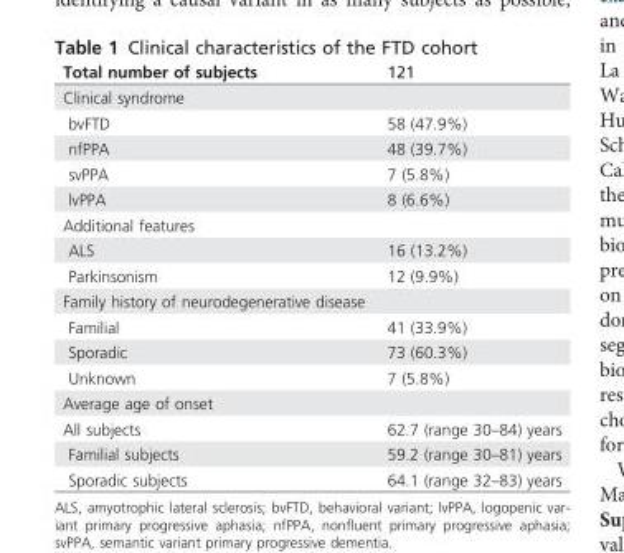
<table><thead><tr><td>Total number of subjects</td><td>121</td></tr></thead><tbody><tr><td colspan="2">Clinical syndrome</td></tr><tr><td>bvFTD</td><td>58 (47.9%)</td></tr><tr><td>nfPPA</td><td>48 (39.7%)</td></tr><tr><td>svPPA</td><td>7 (5.8%)</td></tr><tr><td>lvPPA</td><td>8 (6.6%)</td></tr><tr><td colspan="2">Additional features</td></tr><tr><td>ALS</td><td>16 (13.2%)</td></tr><tr><td>Parkinsonism</td><td>12 (9.9%)</td></tr><tr><td colspan="2">Family history of neurodegenerative disease</td></tr><tr><td>Familial</td><td>41 (33.9%)</td></tr><tr><td>Sporadic</td><td>73 (60.3%)</td></tr><tr><td>Unknown</td><td>7 (5.8%)</td></tr><tr><td colspan="2">Average age of onset</td></tr><tr><td>All subjects</td><td>62.7 (range 30–84) years</td></tr><tr><td>Familial subjects</td><td>59.2 (range 30–81) years</td></tr><tr><td>Sporadic subjects</td><td>64.1 (range 32–83) years</td></tr></tbody></table>